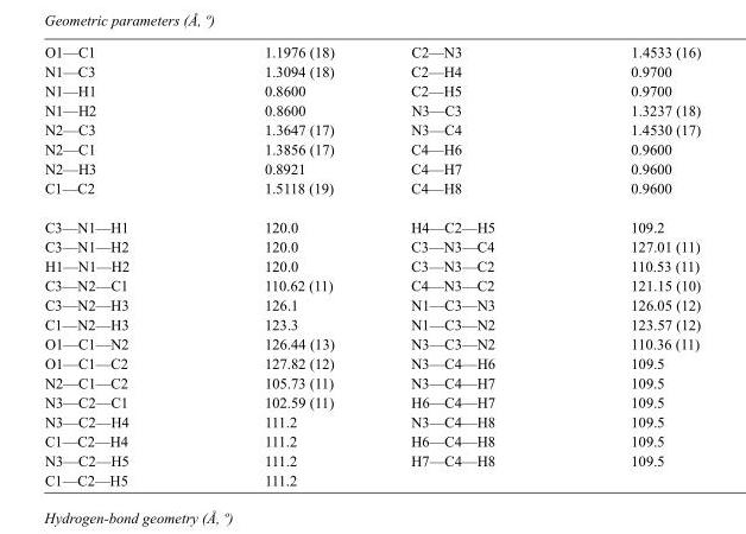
<table><tbody><tr><td>O1—C1</td><td>1.1976 (18)</td><td>C2—N3</td><td>1.4533 (16)</td></tr><tr><td>N1—C3</td><td>1.3094 (18)</td><td>C2—H4</td><td>0.9700</td></tr><tr><td>N1—H1</td><td>0.8600</td><td>C2—H5</td><td>0.9700</td></tr><tr><td>N1—H2</td><td>0.8600</td><td>N3—C3</td><td>1.3237 (18)</td></tr><tr><td>N2—C3</td><td>1.3647 (17)</td><td>N3—C4</td><td>1.4530 (17)</td></tr><tr><td>N2—C1</td><td>1.3856 (17)</td><td>C4—H6</td><td>0.9600</td></tr><tr><td>N2—H3</td><td>0.8921</td><td>C4—H7</td><td>0.9600</td></tr><tr><td>C1—C2</td><td>1.5118 (19)</td><td>C4—H8</td><td>0.9600</td></tr><tr><td>C3—N1—H1</td><td>120.0</td><td>H4—C2—H5</td><td>109.2</td></tr><tr><td>C3—N1—H2</td><td>120.0</td><td>C3—N3—C4</td><td>127.01 (11)</td></tr><tr><td>H1—N1—H2</td><td>120.0</td><td>C3—N3—C2</td><td>110.53 (11)</td></tr><tr><td>C3—N2—C1</td><td>110.62 (11)</td><td>C4—N3—C2</td><td>121.15 (10)</td></tr><tr><td>C3—N2—H3</td><td>126.1</td><td>N1—C3—N3</td><td>126.05 (12)</td></tr><tr><td>C1—N2—H3</td><td>123.3</td><td>N1—C3—N2</td><td>123.57 (12)</td></tr><tr><td>O1—C1—N2</td><td>126.44 (13)</td><td>N3—C3—N2</td><td>110.36 (11)</td></tr><tr><td>O1—C1—C2</td><td>127.82 (12)</td><td>N3—C4—H6</td><td>109.5</td></tr><tr><td>N2—C1—C2</td><td>105.73 (11)</td><td>N3—C4—H7</td><td>109.5</td></tr><tr><td>N3—C2—C1</td><td>102.59 (11)</td><td>H6—C4—H7</td><td>109.5</td></tr><tr><td>N3—C2—H4</td><td>111.2</td><td>N3—C4—H8</td><td>109.5</td></tr><tr><td>C1—C2—H4</td><td>111.2</td><td>H6—C4—H8</td><td>109.5</td></tr><tr><td>N3—C2—H5</td><td>111.2</td><td>H7—C4—H8</td><td>109.5</td></tr><tr><td>C1—C2—H5</td><td>111.2</td><td></td><td></td></tr></tbody></table>